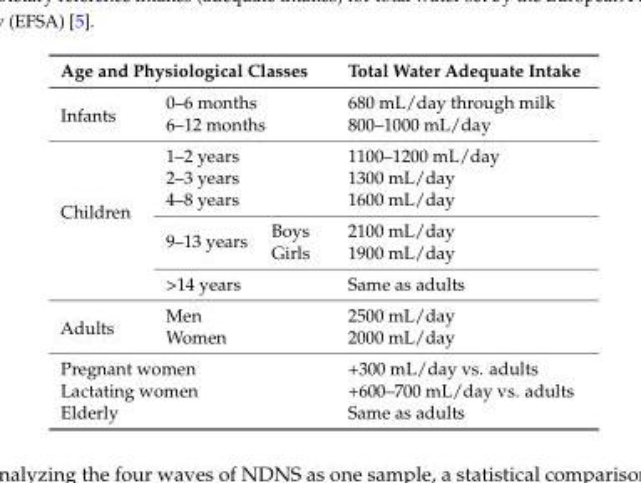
<table><thead><tr><td colspan="3">Age and Physiological Classes</td><td>Total Water Adequate Intake</td></tr></thead><tbody><tr><td rowspan="2">Infants</td><td colspan="2">0–6 months</td><td>680 mL/day through milk</td></tr><tr><td colspan="2">6–12 months</td><td>800–1000 mL/day</td></tr><tr><td rowspan="6">Children</td><td colspan="2">1–2 years</td><td>1100–1200 mL/day</td></tr><tr><td colspan="2">2–3 years</td><td>1300 mL/day</td></tr><tr><td colspan="2">4–8 years</td><td>1600 mL/day</td></tr><tr><td rowspan="2">9–13 years</td><td>Boys</td><td>2100 mL/day</td></tr><tr><td>Girls</td><td>1900 mL/day</td></tr><tr><td colspan="2">&gt;14 years</td><td>Same as adults</td></tr><tr><td rowspan="2">Adults</td><td colspan="2">Men</td><td>2500 mL/day</td></tr><tr><td colspan="2">Women</td><td>2000 mL/day</td></tr><tr><td colspan="3">Pregnant women</td><td>+300 mL/day vs. adults</td></tr><tr><td colspan="3">Lactating women</td><td>+600–700 mL/day vs. adults</td></tr><tr><td colspan="3">Elderly</td><td>Same as adults</td></tr></tbody></table>